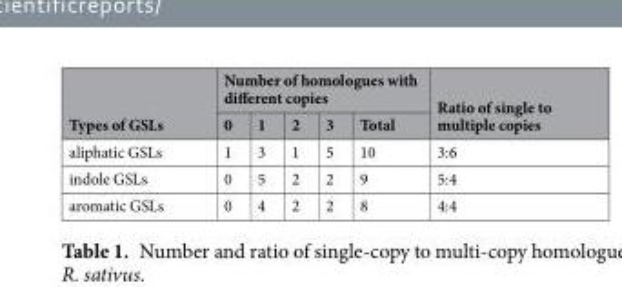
<table><thead><tr><td rowspan="2">Types of GSLs</td><td colspan="5">Number of homologues with different copies</td><td rowspan="2">Ratio of single to multiple copies</td></tr><tr><td>0</td><td>1</td><td>2</td><td>3</td><td>Total</td></tr></thead><tbody><tr><td>aliphatic GSLs</td><td>1</td><td>3</td><td>1</td><td>5</td><td>10</td><td>3:6</td></tr><tr><td>indole GSLs</td><td>0</td><td>5</td><td>2</td><td>2</td><td>9</td><td>5:4</td></tr><tr><td>aromatic GSLs</td><td>0</td><td>4</td><td>2</td><td>2</td><td>8</td><td>4:4</td></tr></tbody></table>